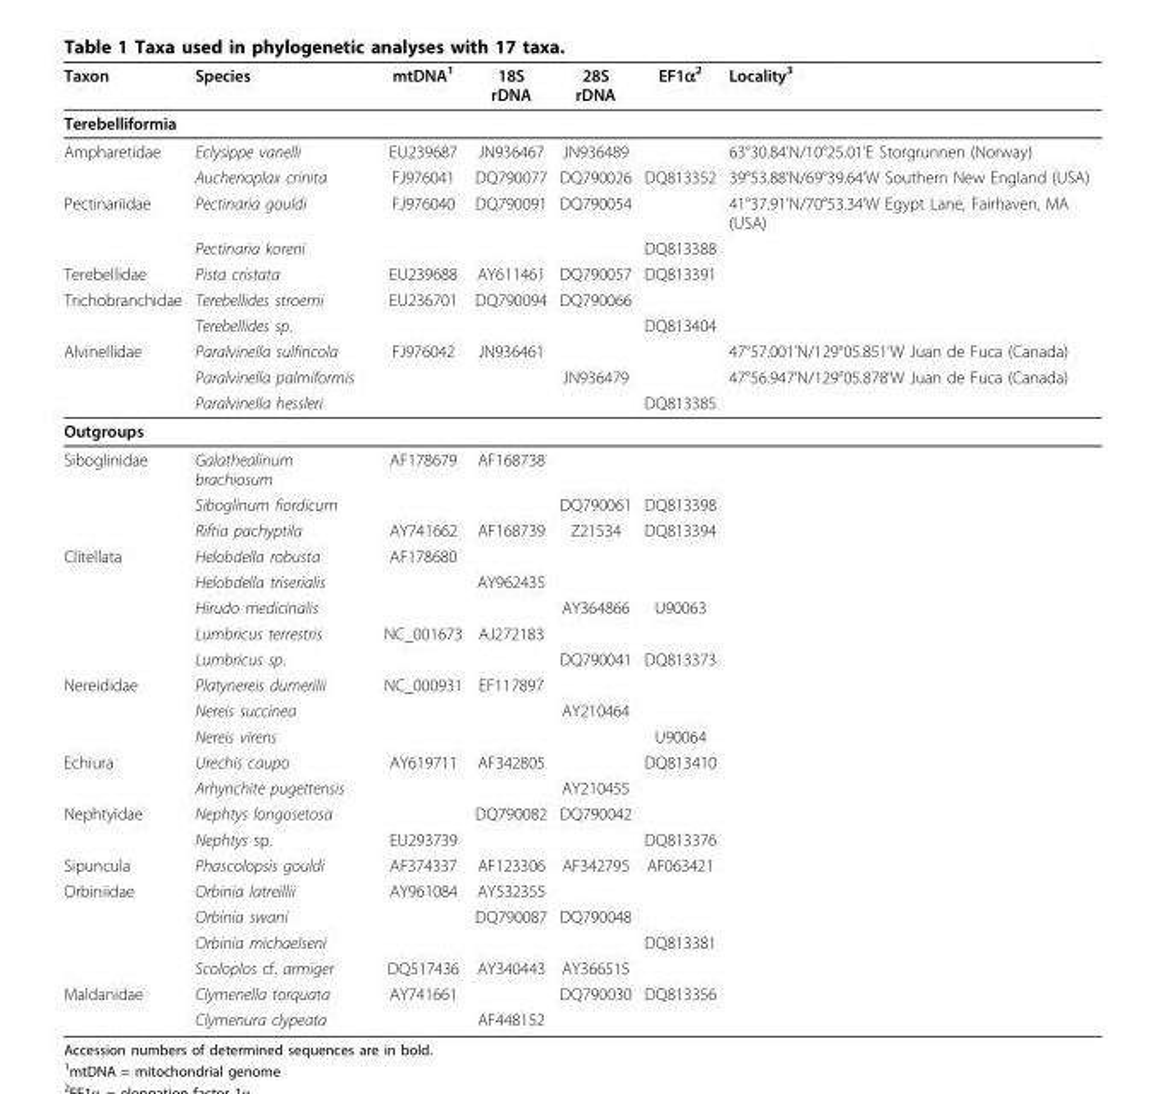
<table><thead><tr><td>Taxon</td><td>Species</td><td>mtDNA<sup>1</sup></td><td>18S rDNA</td><td>28S rDNA</td><td>EF1α<sup>2</sup></td><td>Locality<sup>3</sup></td></tr></thead><tbody><tr><td colspan="7">Terebelliformia</td></tr><tr><td rowspan="2">Ampharetidae</td><td>Eclysippe vanelli</td><td>EU239687</td><td>JN936467</td><td>JN936489</td><td></td><td>63°30.84’N/10°25.01’E Storgrunnen (Norway)</td></tr><tr><td>Auchenoplax crinita</td><td>FJ976041</td><td>DQ790077</td><td>DQ790026</td><td>DQ813352</td><td>39°53.88’N/69°39.64’W Southern New England (USA)</td></tr><tr><td rowspan="2">Pectinariidae</td><td>Pectinaria gouldi</td><td>FJ976040</td><td>DQ790091</td><td>DQ790054</td><td></td><td>41°37.91’N/70°53.34’W Egypt Lane, Fairhaven, MA (USA)</td></tr><tr><td>Pectinaria koreni</td><td></td><td></td><td></td><td>DQ813388</td><td></td></tr><tr><td>Terebellidae</td><td>Pista cristata</td><td>EU239688</td><td>AY611461</td><td>DQ790057</td><td>DQ813391</td><td></td></tr><tr><td rowspan="2">Trichobranchidae</td><td>Terebellides stroemi</td><td>EU236701</td><td>DQ790094</td><td>DQ790066</td><td></td><td></td></tr><tr><td>Terebellides sp.</td><td></td><td></td><td></td><td>DQ813404</td><td></td></tr><tr><td rowspan="3">Alvinellidae</td><td>Paralvinella sulfincola</td><td>FJ976042</td><td>JN936461</td><td></td><td></td><td>47°57.001’N/129°05.851’W Juan de Fuca (Canada)</td></tr><tr><td>Paralvinella palmiformis</td><td></td><td></td><td>JN936479</td><td></td><td>47°56.947’N/129°05.878’W Juan de Fuca (Canada)</td></tr><tr><td>Paralvinella hessleri</td><td></td><td></td><td></td><td>DQ813385</td><td></td></tr><tr><td colspan="7">Outgroups</td></tr><tr><td rowspan="3">Siboglinidae</td><td>Galathealinum brachiosum</td><td>AF178679</td><td>AF168738</td><td></td><td></td><td></td></tr><tr><td>Siboglinum fiordicum</td><td></td><td></td><td>DQ790061</td><td>DQ813398</td><td></td></tr><tr><td>Riftia pachyptila</td><td>AY741662</td><td>AF168739</td><td>Z21534</td><td>DQ813394</td><td></td></tr><tr><td rowspan="5">Clitellata</td><td>Helobdella robusta</td><td>AF178680</td><td></td><td></td><td></td><td></td></tr><tr><td>Helobdella triserialis</td><td></td><td>AY962435</td><td></td><td></td><td></td></tr><tr><td>Hirudo medicinalis</td><td></td><td></td><td>AY364866</td><td>U90063</td><td></td></tr><tr><td>Lumbricus terrestris</td><td>NC_001673</td><td>AJ272183</td><td></td><td></td><td></td></tr><tr><td>Lumbricus sp.</td><td></td><td></td><td>DQ790041</td><td>DQ813373</td><td></td></tr><tr><td rowspan="3">Nereididae</td><td>Platynereis dumerilii</td><td>NC_000931</td><td>EF117897</td><td></td><td></td><td></td></tr><tr><td>Nereis succinea</td><td></td><td></td><td>AY210464</td><td></td><td></td></tr><tr><td>Nereis virens</td><td></td><td></td><td></td><td>U90064</td><td></td></tr><tr><td rowspan="2">Echiura</td><td>Urechis caupo</td><td>AY619711</td><td>AF342805</td><td></td><td>DQ813410</td><td></td></tr><tr><td>Arhynchite pugettensis</td><td></td><td></td><td>AY210455</td><td></td><td></td></tr><tr><td rowspan="2">Nephtyidae</td><td>Nephtys longosetosa</td><td></td><td>DQ790082</td><td>DQ790042</td><td></td><td></td></tr><tr><td>Nephtys sp.</td><td>EU293739</td><td></td><td></td><td>DQ813376</td><td></td></tr><tr><td>Sipuncula</td><td>Phascolopsis gouldi</td><td>AF374337</td><td>AF123306</td><td>AF342795</td><td>AF063421</td><td></td></tr><tr><td rowspan="4">Orbiniidae</td><td>Orbinia latreillii</td><td>AY961084</td><td>AY532355</td><td></td><td></td><td></td></tr><tr><td>Orbinia swani</td><td></td><td>DQ790087</td><td>DQ790048</td><td></td><td></td></tr><tr><td>Orbinia michaelseni</td><td></td><td></td><td></td><td>DQ813381</td><td></td></tr><tr><td>Scoloplos cf. armiger</td><td>DQ517436</td><td>AY340443</td><td>AY366515</td><td></td><td></td></tr><tr><td rowspan="2">Maldanidae</td><td>Clymenella torquata</td><td>AY741661</td><td></td><td>DQ790030</td><td>DQ813356</td><td></td></tr><tr><td>Clymenura clypeata</td><td></td><td>AF448152</td><td></td><td></td><td></td></tr></tbody></table>